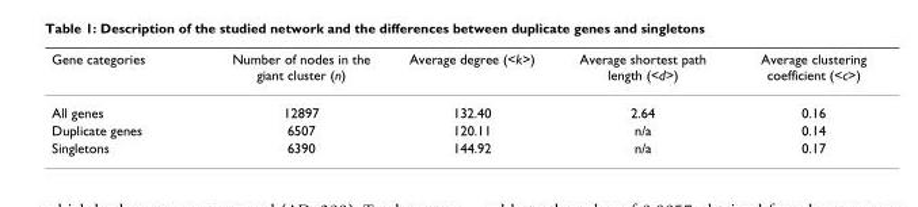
<table><thead><tr><td>Gene categories</td><td>Number of nodes in the giant cluster (n)</td><td>Average degree (&lt;k&gt;)</td><td>Average shortest path length (&lt;d&gt;)</td><td>Average clustering coefficient (&lt;c&gt;)</td></tr></thead><tbody><tr><td>All genes</td><td>12897</td><td>132.40</td><td>2.64</td><td>0.16</td></tr><tr><td>Duplicate genes</td><td>6507</td><td>120.11</td><td>n/a</td><td>0.14</td></tr><tr><td>Singletons</td><td>6390</td><td>144.92</td><td>n/a</td><td>0.17</td></tr></tbody></table>